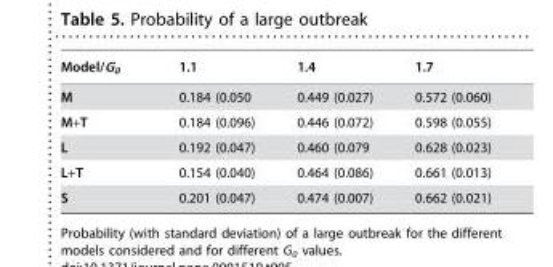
<table><thead><tr><td>Model/G<sub>0</sub></td><td>1.1</td><td>1.4</td><td>1.7</td></tr></thead><tbody><tr><td>M</td><td>0.184 (0.050</td><td>0.449 (0.027)</td><td>0.572 (0.060)</td></tr><tr><td>M+T</td><td>0.184 (0.096)</td><td>0.446 (0.072)</td><td>0.598 (0.055)</td></tr><tr><td>L</td><td>0.192 (0.047)</td><td>0.460 (0.079</td><td>0.628 (0.023)</td></tr><tr><td>L+T</td><td>0.154 (0.040)</td><td>0.464 (0.086)</td><td>0.661 (0.013)</td></tr><tr><td>S</td><td>0.201 (0.047)</td><td>0.474 (0.007)</td><td>0.662 (0.021)</td></tr></tbody></table>